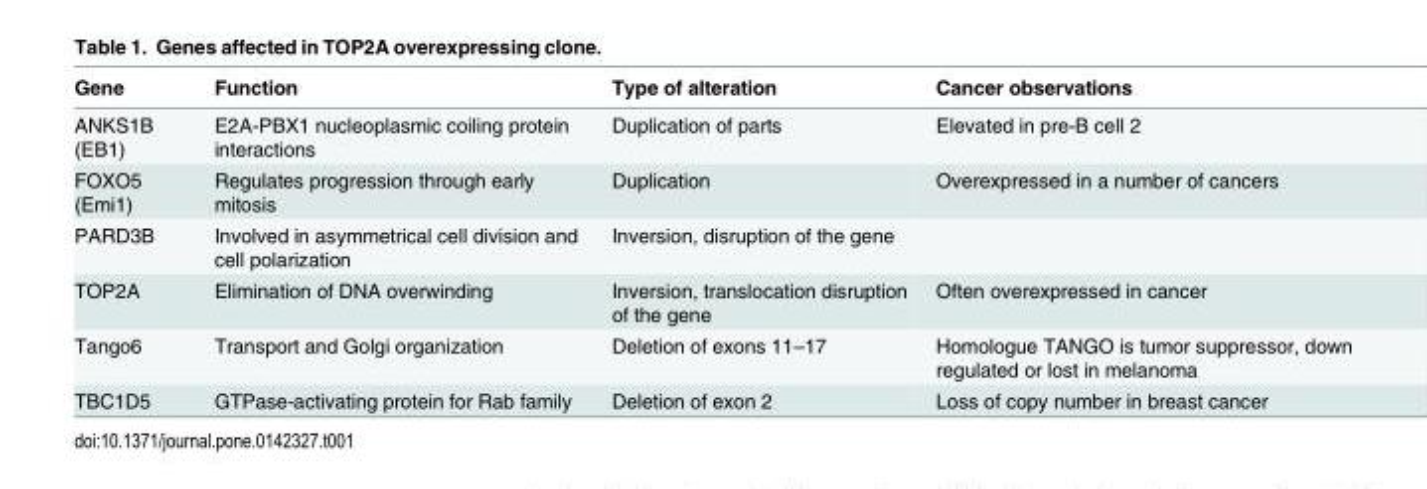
<table><thead><tr><td>Gene</td><td>Function</td><td>Type of alteration</td><td>Cancer observations</td></tr></thead><tbody><tr><td>ANKS1B (EB1)</td><td>E2A-PBX1 nucleoplasmic coiling protein interactions</td><td>Duplication of parts</td><td>Elevated in pre-B cell 2</td></tr><tr><td>FOXO5 (Emi1)</td><td>Regulates progression through early mitosis</td><td>Duplication</td><td>Overexpressed in a number of cancers</td></tr><tr><td>PARD3B</td><td>Involved in asymmetrical cell division and cell polarization</td><td>Inversion, disruption of the gene</td><td></td></tr><tr><td>TOP2A</td><td>Elimination of DNA overwinding</td><td>Inversion, translocation disruption of the gene</td><td>Often overexpressed in cancer</td></tr><tr><td>Tango6</td><td>Transport and Golgi organization</td><td>Deletion of exons 11–17</td><td>Homologue TANGO is tumor suppressor, down regulated or lost in melanoma</td></tr><tr><td>TBC1D5</td><td>GTPase-activating protein for Rab family</td><td>Deletion of exon 2</td><td>Loss of copy number in breast cancer</td></tr></tbody></table>